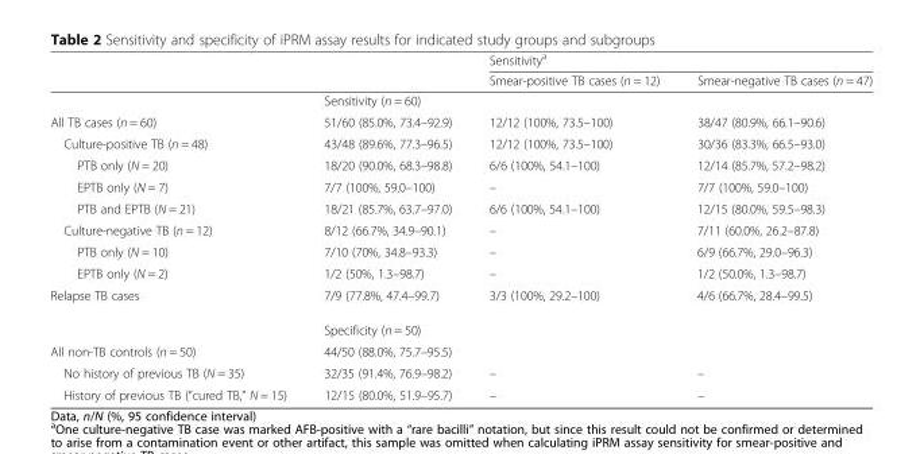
<table><thead><tr><td rowspan="2"></td><td rowspan="2"></td><td colspan="2">Sensitivity<sup>a</sup></td></tr><tr><td>Smear-positive TB cases (n = 12)</td><td>Smear-negative TB cases (n = 47)</td></tr></thead><tbody><tr><td></td><td>Sensitivity (n = 60)</td><td colspan="2"></td></tr><tr><td>All TB cases (n = 60)</td><td>51/60 (85.0%, 73.4–92.9)</td><td>12/12 (100%, 73.5–100)</td><td>38/47 (80.9%, 66.1–90.6)</td></tr><tr><td>Culture-positive TB (n = 48)</td><td>43/48 (89.6%, 77.3–96.5)</td><td>12/12 (100%, 73.5–100)</td><td>30/36 (83.3%, 66.5–93.0)</td></tr><tr><td>PTB only (N = 20)</td><td>18/20 (90.0%, 68.3–98.8)</td><td>6/6 (100%, 54.1–100)</td><td>12/14 (85.7%, 57.2–98.2)</td></tr><tr><td>EPTB only (N = 7)</td><td>7/7 (100%, 59.0–100)</td><td>–</td><td>7/7 (100%, 59.0–100)</td></tr><tr><td>PTB and EPTB (N = 21)</td><td>18/21 (85.7%, 63.7–97.0)</td><td>6/6 (100%, 54.1–100)</td><td>12/15 (80.0%, 59.5–98.3)</td></tr><tr><td>Culture-negative TB (n = 12)</td><td>8/12 (66.7%, 34.9–90.1)</td><td>–</td><td>7/11 (60.0%, 26.2–87.8)</td></tr><tr><td>PTB only (N = 10)</td><td>7/10 (70%, 34.8–93.3)</td><td>–</td><td>6/9 (66.7%, 29.0–96.3)</td></tr><tr><td>EPTB only (N = 2)</td><td>1/2 (50%, 1.3–98.7)</td><td>–</td><td>1/2 (50.0%, 1.3–98.7)</td></tr><tr><td rowspan="2">Relapse TB cases</td><td>7/9 (77.8%, 47.4–99.7)</td><td>3/3 (100%, 29.2–100)</td><td>4/6 (66.7%, 28.4–99.5)</td></tr><tr><td>Specificity (n = 50)</td><td colspan="2"></td></tr><tr><td>All non-TB controls (n = 50)</td><td>44/50 (88.0%, 75.7–95.5)</td><td></td><td></td></tr><tr><td>No history of previous TB (N = 35)</td><td>32/35 (91.4%, 76.9–98.2)</td><td>–</td><td>–</td></tr><tr><td>History of previous TB (“cured TB,” N = 15)</td><td>12/15 (80.0%, 51.9–95.7)</td><td>–</td><td>–</td></tr></tbody></table>